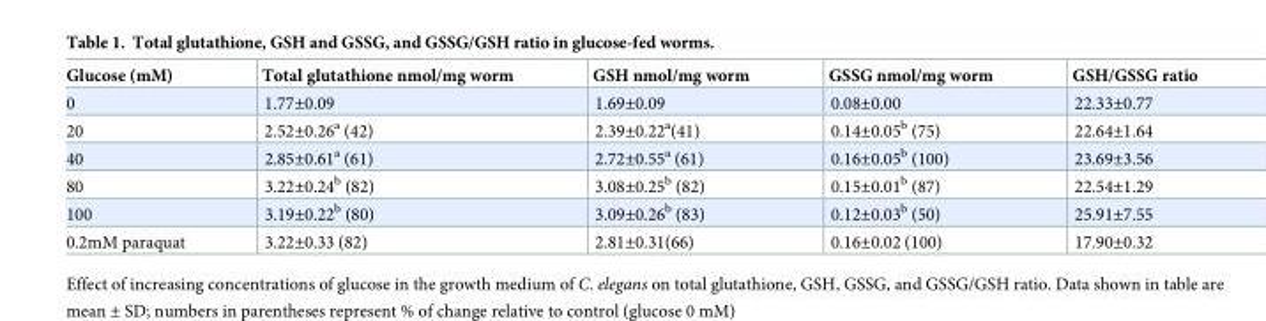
<table><thead><tr><td>Glucose (mM)</td><td>Total glutathione nmol/mg worm</td><td>GSH nmol/mg worm</td><td>GSSG nmol/mg worm</td><td>GSH/GSSG ratio</td></tr></thead><tbody><tr><td>0</td><td>1.77±0.09</td><td>1.69±0.09</td><td>0.08±0.00</td><td>22.33±0.77</td></tr><tr><td>20</td><td>2.52±0.26<sup>a</sup> (42)</td><td>2.39±0.22<sup>a</sup>(41)</td><td>0.14±0.05<sup>b</sup> (75)</td><td>22.64±1.64</td></tr><tr><td>40</td><td>2.85±0.61<sup>a</sup> (61)</td><td>2.72±0.55<sup>a</sup> (61)</td><td>0.16±0.05<sup>b</sup> (100)</td><td>23.69±3.56</td></tr><tr><td>80</td><td>3.22±0.24<sup>b</sup> (82)</td><td>3.08±0.25<sup>b</sup> (82)</td><td>0.15±0.01<sup>b</sup> (87)</td><td>22.54±1.29</td></tr><tr><td>100</td><td>3.19±0.22<sup>b</sup> (80)</td><td>3.09±0.26<sup>b</sup> (83)</td><td>0.12±0.03<sup>b</sup> (50)</td><td>25.91±7.55</td></tr><tr><td>0.2mM paraquat</td><td>3.22±0.33 (82)</td><td>2.81±0.31(66)</td><td>0.16±0.02 (100)</td><td>17.90±0.32</td></tr></tbody></table>